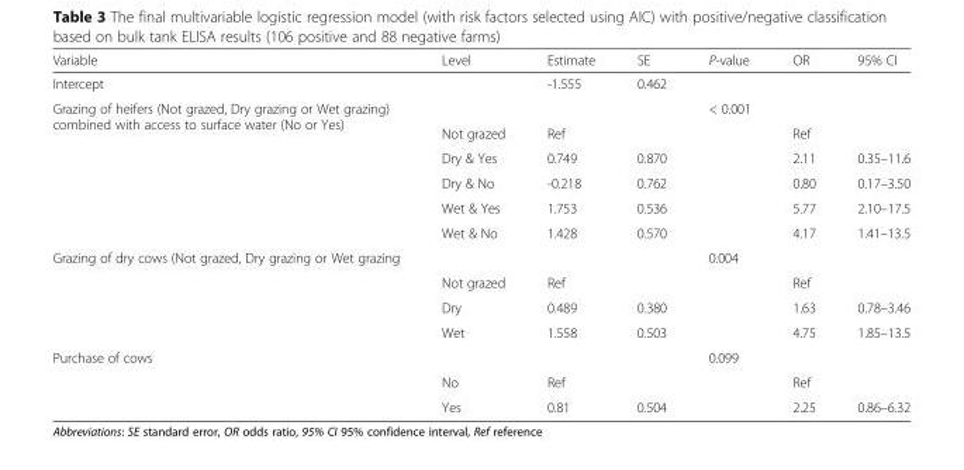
<table><thead><tr><td>Variable</td><td>Level</td><td>Estimate</td><td>SE</td><td>P-value</td><td>OR</td><td>95% CI</td></tr></thead><tbody><tr><td>Intercept</td><td></td><td>-1.555</td><td>0.462</td><td></td><td></td><td></td></tr><tr><td rowspan="6">Grazing of heifers (Not grazed, Dry grazing or Wet grazing) combined with access to surface water (No or Yes)</td><td></td><td></td><td></td><td>&lt; 0.001</td><td></td><td></td></tr><tr><td>Not grazed</td><td>Ref</td><td></td><td></td><td>Ref</td><td></td></tr><tr><td>Dry &amp; Yes</td><td>0.749</td><td>0.870</td><td></td><td>2.11</td><td>0.35–11.6</td></tr><tr><td>Dry &amp; No</td><td>-0.218</td><td>0.762</td><td></td><td>0.80</td><td>0.17–3.50</td></tr><tr><td>Wet &amp; Yes</td><td>1.753</td><td>0.536</td><td></td><td>5.77</td><td>2.10–17.5</td></tr><tr><td>Wet &amp; No</td><td>1.428</td><td>0.570</td><td></td><td>4.17</td><td>1.41–13.5</td></tr><tr><td rowspan="4">Grazing of dry cows (Not grazed, Dry grazing or Wet grazing</td><td></td><td></td><td></td><td>0.004</td><td></td><td></td></tr><tr><td>Not grazed</td><td>Ref</td><td></td><td></td><td>Ref</td><td></td></tr><tr><td>Dry</td><td>0.489</td><td>0.380</td><td></td><td>1.63</td><td>0.78–3.46</td></tr><tr><td>Wet</td><td>1.558</td><td>0.503</td><td></td><td>4.75</td><td>1.85–13.5</td></tr><tr><td rowspan="3">Purchase of cows</td><td></td><td></td><td></td><td>0.099</td><td></td><td></td></tr><tr><td>No</td><td>Ref</td><td></td><td></td><td>Ref</td><td></td></tr><tr><td>Yes</td><td>0.81</td><td>0.504</td><td></td><td>2.25</td><td>0.86–6.32</td></tr></tbody></table>